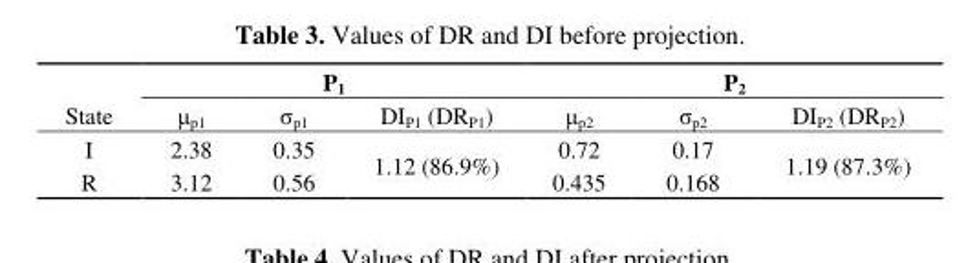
<table><thead><tr><td rowspan="2">State</td><td colspan="3">P<sub>1</sub></td><td colspan="3">P<sub>2</sub></td></tr><tr><td>μ<sub>p1</sub></td><td>σ<sub>p1</sub></td><td>DI<sub>P1</sub> (DR<sub>P1</sub>)</td><td>μ<sub>p2</sub></td><td>σ<sub>p2</sub></td><td>DI<sub>P2</sub> (DR<sub>P2</sub>)</td></tr></thead><tbody><tr><td>I</td><td>2.38</td><td>0.35</td><td rowspan="2">1.12 (86.9%)</td><td>0.72</td><td>0.17</td><td rowspan="2">1.19 (87.3%)</td></tr><tr><td>R</td><td>3.12</td><td>0.56</td><td>0.435</td><td>0.168</td></tr></tbody></table>